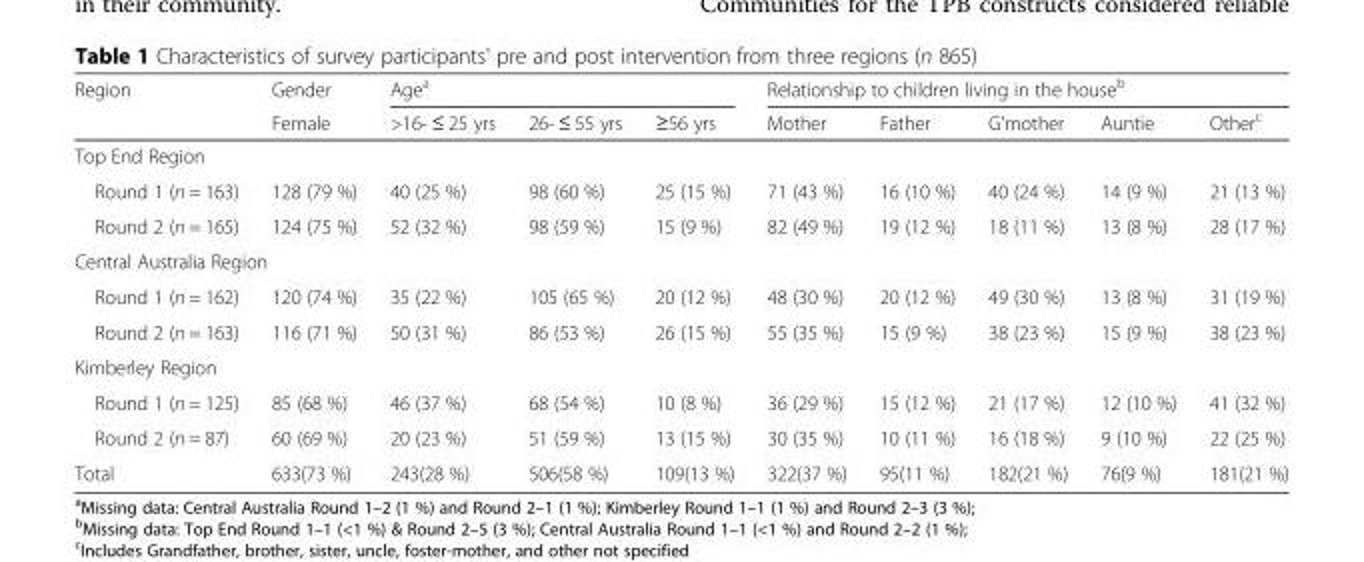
<table><thead><tr><td rowspan="2">Region</td><td rowspan="2">Gender Female</td><td colspan="3">Age<sup>a</sup></td><td colspan="5">Relationship to children living in the house<sup>b</sup></td></tr><tr><td>&gt;16- ≤ 25 yrs</td><td>26- ≤ 55 yrs</td><td>≥56 yrs</td><td>Mother</td><td>Father</td><td>G&#x27;mother</td><td>Auntie</td><td>Other<sup>c</sup></td></tr></thead><tbody><tr><td colspan="10">Top End Region</td></tr><tr><td>Round 1 (n = 163)</td><td>128 (79 %)</td><td>40 (25 %)</td><td>98 (60 %)</td><td>25 (15 %)</td><td>71 (43 %)</td><td>16 (10 %)</td><td>40 (24 %)</td><td>14 (9 %)</td><td>21 (13 %)</td></tr><tr><td>Round 2 (n = 165)</td><td>124 (75 %)</td><td>52 (32 %)</td><td>98 (59 %)</td><td>15 (9 %)</td><td>82 (49 %)</td><td>19 (12 %)</td><td>18 (11 %)</td><td>13 (8 %)</td><td>28 (17 %)</td></tr><tr><td colspan="10">Central Australia Region</td></tr><tr><td>Round 1 (n = 162)</td><td>120 (74 %)</td><td>35 (22 %)</td><td>105 (65 %)</td><td>20 (12 %)</td><td>48 (30 %)</td><td>20 (12 %)</td><td>49 (30 %)</td><td>13 (8 %)</td><td>31 (19 %)</td></tr><tr><td>Round 2 (n = 163)</td><td>116 (71 %)</td><td>50 (31 %)</td><td>86 (53 %)</td><td>26 (15 %)</td><td>55 (35 %)</td><td>15 (9 %)</td><td>38 (23 %)</td><td>15 (9 %)</td><td>38 (23 %)</td></tr><tr><td colspan="10">Kimberley Region</td></tr><tr><td>Round 1 (n = 125)</td><td>85 (68 %)</td><td>46 (37 %)</td><td>68 (54 %)</td><td>10 (8 %)</td><td>36 (29 %)</td><td>15 (12 %)</td><td>21 (17 %)</td><td>12 (10 %)</td><td>41 (32 %)</td></tr><tr><td>Round 2 (n = 87)</td><td>60 (69 %)</td><td>20 (23 %)</td><td>51 (59 %)</td><td>13 (15 %)</td><td>30 (35 %)</td><td>10 (11 %)</td><td>16 (18 %)</td><td>9 (10 %)</td><td>22 (25 %)</td></tr><tr><td>Total</td><td>633(73 %)</td><td>243(28 %)</td><td>506(58 %)</td><td>109(13 %)</td><td>322(37 %)</td><td>95(11 %)</td><td>182(21 %)</td><td>76(9 %)</td><td>181(21 %)</td></tr></tbody></table>